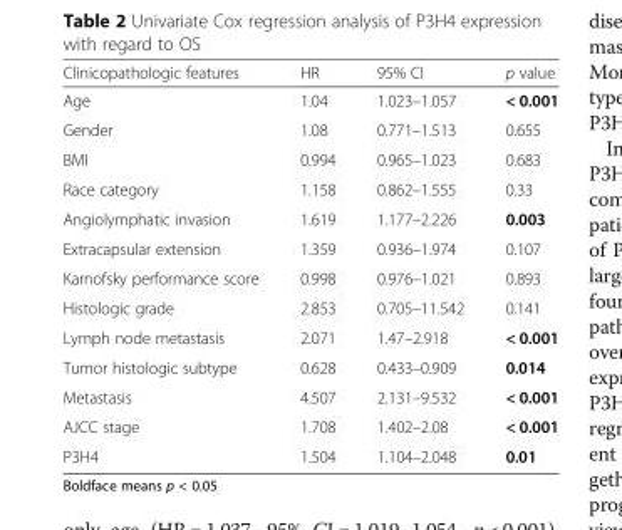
<table><thead><tr><td>Clinicopathologic features</td><td>HR</td><td>95% CI</td><td>p value</td></tr></thead><tbody><tr><td>Age</td><td>1.04</td><td>1.023–1.057</td><td>&lt; 0.001</td></tr><tr><td>Gender</td><td>1.08</td><td>0.771–1.513</td><td>0.655</td></tr><tr><td>BMI</td><td>0.994</td><td>0.965–1.023</td><td>0.683</td></tr><tr><td>Race category</td><td>1.158</td><td>0.862–1.555</td><td>0.33</td></tr><tr><td>Angiolymphatic invasion</td><td>1.619</td><td>1.177–2.226</td><td>0.003</td></tr><tr><td>Extracapsular extension</td><td>1.359</td><td>0.936–1.974</td><td>0.107</td></tr><tr><td>Karnofsky performance score</td><td>0.998</td><td>0.976–1.021</td><td>0.893</td></tr><tr><td>Histologic grade</td><td>2.853</td><td>0.705–11.542</td><td>0.141</td></tr><tr><td>Lymph node metastasis</td><td>2.071</td><td>1.47–2.918</td><td>&lt; 0.001</td></tr><tr><td>Tumor histologic subtype</td><td>0.628</td><td>0.433–0.909</td><td>0.014</td></tr><tr><td>Metastasis</td><td>4.507</td><td>2.131–9.532</td><td>&lt; 0.001</td></tr><tr><td>AJCC stage</td><td>1.708</td><td>1.402–2.08</td><td>&lt; 0.001</td></tr><tr><td>P3H4</td><td>1.504</td><td>1.104–2.048</td><td>0.01</td></tr></tbody></table>